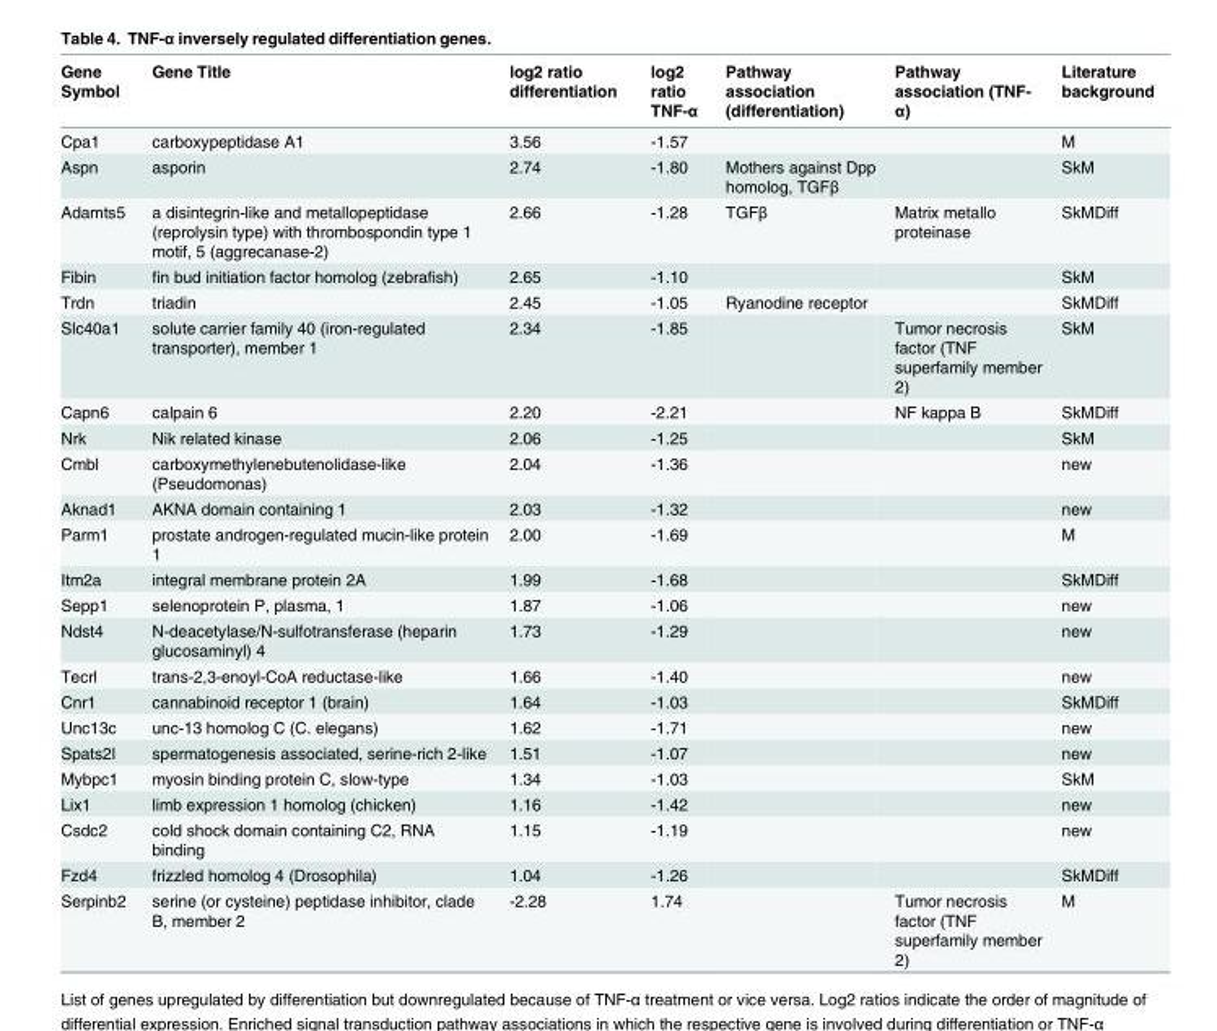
<table><thead><tr><td>Gene Symbol</td><td>Gene Title</td><td>log2 ratio differentiation</td><td>log2 ratio TNF-α</td><td>Pathway association (differentiation)</td><td>Pathway association (TNF- α)</td><td>Literature background</td></tr></thead><tbody><tr><td>Cpa1</td><td>carboxypeptidase A1</td><td>3.56</td><td>-1.57</td><td></td><td></td><td>M</td></tr><tr><td>Aspn</td><td>asporin</td><td>2.74</td><td>-1.80</td><td>Mothers against Dpp homolog, TGFβ</td><td></td><td>SkM</td></tr><tr><td>Adamts5</td><td>a disintegrin-like and metallopeptidase (reprolysin type) with thrombospondin type 1 motif, 5 (aggrecanase-2)</td><td>2.66</td><td>-1.28</td><td>TGFβ</td><td>Matrix metallo proteinase</td><td>SkMDiff</td></tr><tr><td>Fibin</td><td>fin bud initiation factor homolog (zebrafish)</td><td>2.65</td><td>-1.10</td><td></td><td></td><td>SkM</td></tr><tr><td>Trdn</td><td>triadin</td><td>2.45</td><td>-1.05</td><td>Ryanodine receptor</td><td></td><td>SkMDiff</td></tr><tr><td>Slc40a1</td><td>solute carrier family 40 (iron-regulated transporter), member 1</td><td>2.34</td><td>-1.85</td><td></td><td>Tumor necrosis factor (TNF superfamily member 2)</td><td>SkM</td></tr><tr><td>Capn6</td><td>calpain 6</td><td>2.20</td><td>-2.21</td><td></td><td>NF kappa B</td><td>SkMDiff</td></tr><tr><td>Nrk</td><td>Nik related kinase</td><td>2.06</td><td>-1.25</td><td></td><td></td><td>SkM</td></tr><tr><td>Cmbl</td><td>carboxymethylenebutenolidase-like (Pseudomonas)</td><td>2.04</td><td>-1.36</td><td></td><td></td><td>new</td></tr><tr><td>Aknad1</td><td>AKNA domain containing 1</td><td>2.03</td><td>-1.32</td><td></td><td></td><td>new</td></tr><tr><td>Parm1</td><td>prostate androgen-regulated mucin-like protein 1</td><td>2.00</td><td>-1.69</td><td></td><td></td><td>M</td></tr><tr><td>Itm2a</td><td>integral membrane protein 2A</td><td>1.99</td><td>-1.68</td><td></td><td></td><td>SkMDiff</td></tr><tr><td>Sepp1</td><td>selenoprotein P, plasma, 1</td><td>1.87</td><td>-1.06</td><td></td><td></td><td>new</td></tr><tr><td>Ndst4</td><td>N-deacetylase/N-sulfotransferase (heparin glucosaminyl) 4</td><td>1.73</td><td>-1.29</td><td></td><td></td><td>new</td></tr><tr><td>Tecrl</td><td>trans-2,3-enoyl-CoA reductase-like</td><td>1.66</td><td>-1.40</td><td></td><td></td><td>new</td></tr><tr><td>Cnr1</td><td>cannabinoid receptor 1 (brain)</td><td>1.64</td><td>-1.03</td><td></td><td></td><td>SkMDiff</td></tr><tr><td>Unc13c</td><td>unc-13 homolog C (C. elegans)</td><td>1.62</td><td>-1.71</td><td></td><td></td><td>new</td></tr><tr><td>Spats2l</td><td>spermatogenesis associated, serine-rich 2-like</td><td>1.51</td><td>-1.07</td><td></td><td></td><td>new</td></tr><tr><td>Mybpc1</td><td>myosin binding protein C, slow-type</td><td>1.34</td><td>-1.03</td><td></td><td></td><td>SkM</td></tr><tr><td>Lix1</td><td>limb expression 1 homolog (chicken)</td><td>1.16</td><td>-1.42</td><td></td><td></td><td>new</td></tr><tr><td>Csdc2</td><td>cold shock domain containing C2, RNA binding</td><td>1.15</td><td>-1.19</td><td></td><td></td><td>new</td></tr><tr><td>Fzd4</td><td>frizzled homolog 4 (Drosophila)</td><td>1.04</td><td>-1.26</td><td></td><td></td><td>SkMDiff</td></tr><tr><td>Serpinb2</td><td>serine (or cysteine) peptidase inhibitor, clade B, member 2</td><td>-2.28</td><td>1.74</td><td></td><td>Tumor necrosis factor (TNF superfamily member 2)</td><td>M</td></tr></tbody></table>